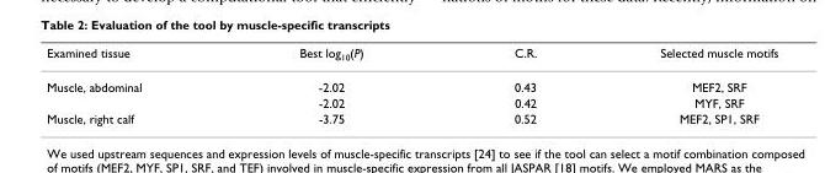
<table><thead><tr><td>Examined tissue</td><td>Best log<sub>10</sub>(P)</td><td>C.R.</td><td>Selected muscle motifs</td></tr></thead><tbody><tr><td rowspan="2">Muscle, abdominal</td><td>-2.02</td><td>0.43</td><td>MEF2, SRF</td></tr><tr><td>-2.02</td><td>0.42</td><td>MYF, SRF</td></tr><tr><td>Muscle, right calf</td><td>-3.75</td><td>0.52</td><td>MEF2, SP1, SRF</td></tr></tbody></table>